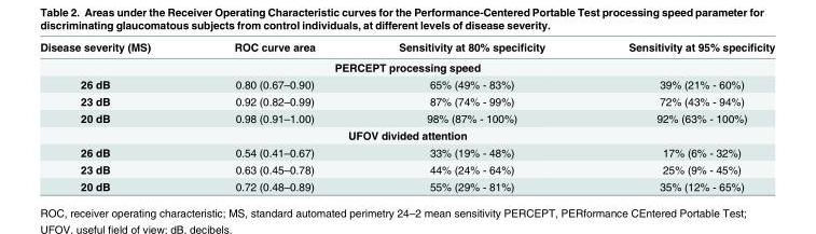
<table><thead><tr><td>Disease severity (MS)</td><td>ROC curve area</td><td>Sensitivity at 80% specificity</td><td>Sensitivity at 95% specificity</td></tr></thead><tbody><tr><td colspan="4">PERCEPT processing speed</td></tr><tr><td>26 dB</td><td>0.80 (0.67–0.90)</td><td>65% (49% - 83%)</td><td>39% (21% - 60%)</td></tr><tr><td>23 dB</td><td>0.92 (0.82–0.99)</td><td>87% (74% - 99%)</td><td>72% (43% - 94%)</td></tr><tr><td>20 dB</td><td>0.98 (0.91–1.00)</td><td>98% (87% - 100%)</td><td>92% (63% - 100%)</td></tr><tr><td colspan="4">UFOV divided attention</td></tr><tr><td>26 dB</td><td>0.54 (0.41–0.67)</td><td>33% (19% - 48%)</td><td>17% (6% - 32%)</td></tr><tr><td>23 dB</td><td>0.63 (0.45–0.78)</td><td>44% (24% - 64%)</td><td>25% (9% - 45%)</td></tr><tr><td>20 dB</td><td>0.72 (0.48–0.89)</td><td>55% (29% - 81%)</td><td>35% (12% - 65%)</td></tr></tbody></table>